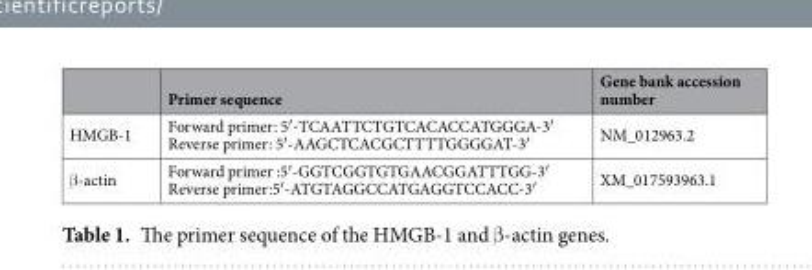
<table><thead><tr><td></td><td>Primer sequence</td><td>Gene bank accession number</td></tr></thead><tbody><tr><td>HMGB-1</td><td>Forward primer: 5′-TCAATTCTGTCACACCATGGGA-3′ Reverse primer: 5′-AAGCTCACGCTTTTGGGGAT-3′</td><td>NM_012963.2</td></tr><tr><td>β-actin</td><td>Forward primer :5′-GGTCGGTGTGAACGGATTTGG-3′ Reverse primer:5′-ATGTAGGCCATGAGGTCCACC-3′</td><td>XM_017593963.1</td></tr></tbody></table>